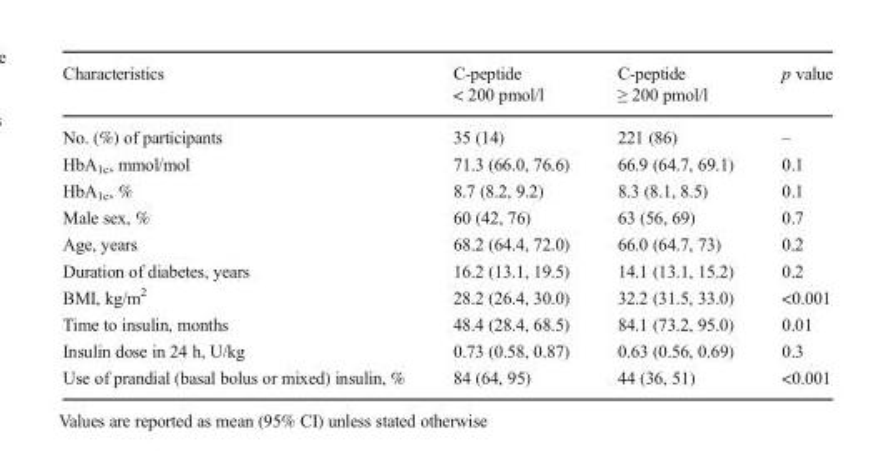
<table><thead><tr><td>Characteristics</td><td>C-peptide &lt; 200 pmol/l</td><td>C-peptide ≥ 200 pmol/l</td><td>p value</td></tr></thead><tbody><tr><td>No. (%) of participants</td><td>35 (14)</td><td>221 (86)</td><td>–</td></tr><tr><td>HbA<sub>1c</sub>, mmol/mol</td><td>71.3 (66.0, 76.6)</td><td>66.9 (64.7, 69.1)</td><td>0.1</td></tr><tr><td>HbA<sub>1c</sub>, %</td><td>8.7 (8.2, 9.2)</td><td>8.3 (8.1, 8.5)</td><td>0.1</td></tr><tr><td>Male sex, %</td><td>60 (42, 76)</td><td>63 (56, 69)</td><td>0.7</td></tr><tr><td>Age, years</td><td>68.2 (64.4, 72.0)</td><td>66.0 (64.7, 73)</td><td>0.2</td></tr><tr><td>Duration of diabetes, years</td><td>16.2 (13.1, 19.5)</td><td>14.1 (13.1, 15.2)</td><td>0.2</td></tr><tr><td>BMI, kg/m<sup>2</sup></td><td>28.2 (26.4, 30.0)</td><td>32.2 (31.5, 33.0)</td><td>&lt;0.001</td></tr><tr><td>Time to insulin, months</td><td>48.4 (28.4, 68.5)</td><td>84.1 (73.2, 95.0)</td><td>0.01</td></tr><tr><td>Insulin dose in 24 h, U/kg</td><td>0.73 (0.58, 0.87)</td><td>0.63 (0.56, 0.69)</td><td>0.3</td></tr><tr><td>Use of prandial (basal bolus or mixed) insulin, %</td><td>84 (64, 95)</td><td>44 (36, 51)</td><td>&lt;0.001</td></tr></tbody></table>